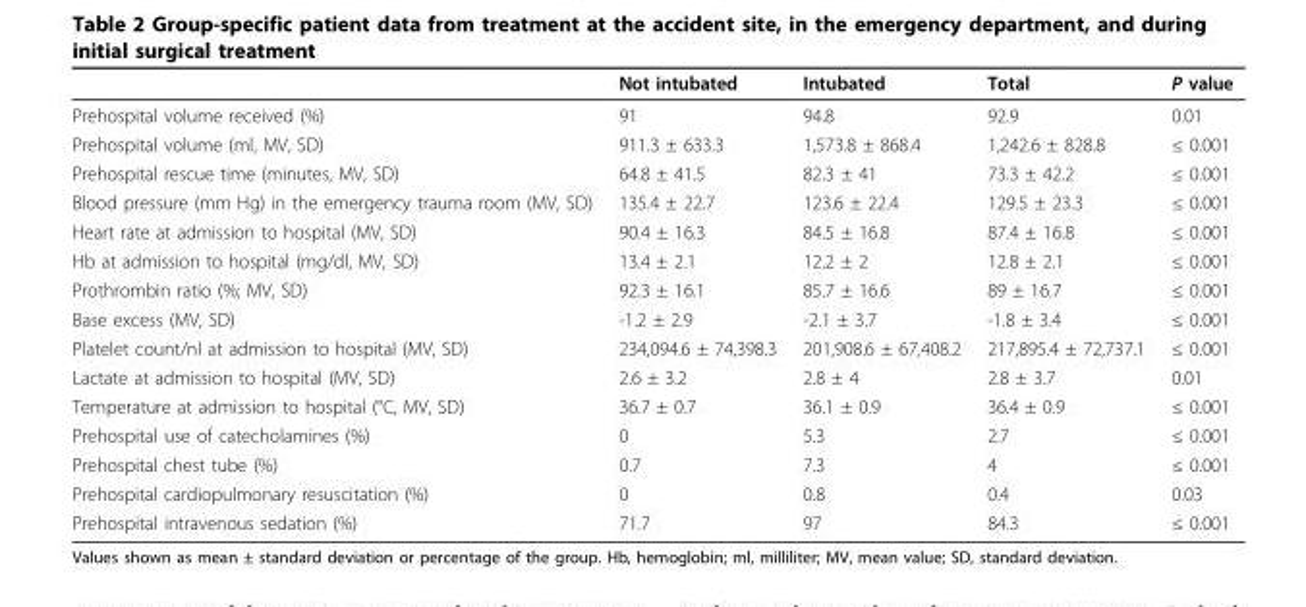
<table><thead><tr><td></td><td>Not intubated</td><td>Intubated</td><td>Total</td><td>P value</td></tr></thead><tbody><tr><td>Prehospital volume received (%)</td><td>91</td><td>94.8</td><td>92.9</td><td>0.01</td></tr><tr><td>Prehospital volume (ml, MV, SD)</td><td>911.3 ± 633.3</td><td>1,573.8 ± 868.4</td><td>1,242.6 ± 828.8</td><td>≤ 0.001</td></tr><tr><td>Prehospital rescue time (minutes, MV, SD)</td><td>64.8 ± 41.5</td><td>82.3 ± 41</td><td>73.3 ± 42.2</td><td>≤ 0.001</td></tr><tr><td>Blood pressure (mm Hg) in the emergency trauma room (MV, SD)</td><td>135.4 ± 22.7</td><td>123.6 ± 22.4</td><td>129.5 ± 23.3</td><td>≤ 0.001</td></tr><tr><td>Heart rate at admission to hospital (MV, SD)</td><td>90.4 ± 16.3</td><td>84.5 ± 16.8</td><td>87.4 ± 16.8</td><td>≤ 0.001</td></tr><tr><td>Hb at admission to hospital (mg/dl, MV, SD)</td><td>13.4 ± 2.1</td><td>12.2 ± 2</td><td>12.8 ± 2.1</td><td>≤ 0.001</td></tr><tr><td>Prothrombin ratio (%; MV, SD)</td><td>92.3 ± 16.1</td><td>85.7 ± 16.6</td><td>89 ± 16.7</td><td>≤ 0.001</td></tr><tr><td>Base excess (MV, SD)</td><td>-1.2 ± 2.9</td><td>-2.1 ± 3.7</td><td>-1.8 ± 3.4</td><td>≤ 0.001</td></tr><tr><td>Platelet count/nl at admission to hospital (MV, SD)</td><td>234,094.6 ± 74,398.3</td><td>201,908.6 ± 67,408.2</td><td>217,895.4 ± 72,737.1</td><td>≤ 0.001</td></tr><tr><td>Lactate at admission to hospital (MV, SD)</td><td>2.6 ± 3.2</td><td>2.8 ± 4</td><td>2.8 ± 3.7</td><td>0.01</td></tr><tr><td>Temperature at admission to hospital (°C, MV, SD)</td><td>36.7 ± 0.7</td><td>36.1 ± 0.9</td><td>36.4 ± 0.9</td><td>≤ 0.001</td></tr><tr><td>Prehospital use of catecholamines (%)</td><td>0</td><td>5.3</td><td>2.7</td><td>≤ 0.001</td></tr><tr><td>Prehospital chest tube (%)</td><td>0.7</td><td>7.3</td><td>4</td><td>≤ 0.001</td></tr><tr><td>Prehospital cardiopulmonary resuscitation (%)</td><td>0</td><td>0.8</td><td>0.4</td><td>0.03</td></tr><tr><td>Prehospital intravenous sedation (%)</td><td>71.7</td><td>97</td><td>84.3</td><td>≤ 0.001</td></tr></tbody></table>